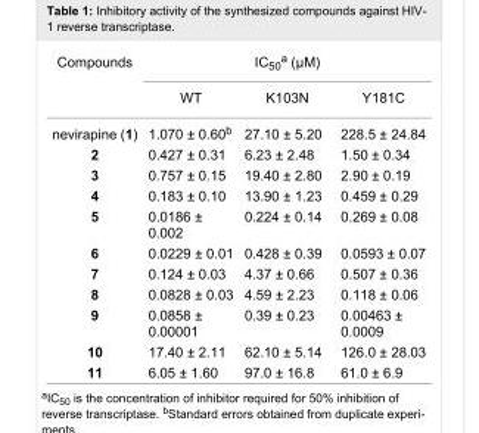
<table><tbody><tr><td rowspan="2">Compounds</td><td colspan="3">IC50a (μM)</td></tr><tr><td>WT</td><td>K103N</td><td>Y181C</td></tr><tr><td>nevirapine (1)</td><td>1.070 ± 0.60<sup>b</sup></td><td>27.10 ± 5.20</td><td>228.5 ± 24.84</td></tr><tr><td>2</td><td>0.427 ± 0.31</td><td>6.23 ± 2.48</td><td>1.50 ± 0.34</td></tr><tr><td>3</td><td>0.757 ± 0.15</td><td>19.40 ± 2.80</td><td>2.90 ± 0.19</td></tr><tr><td>4</td><td>0.183 ± 0.10</td><td>13.90 ± 1.23</td><td>0.459 ± 0.29</td></tr><tr><td>5</td><td>0.0186 ± 0.002</td><td>0.224 ± 0.14</td><td>0.269 ± 0.08</td></tr><tr><td>6</td><td>0.0229 ± 0.01</td><td>0.428 ± 0.39</td><td>0.0593 ± 0.07</td></tr><tr><td>7</td><td>0.124 ± 0.03</td><td>4.37 ± 0.66</td><td>0.507 ± 0.36</td></tr><tr><td>8</td><td>0.0828 ± 0.03</td><td>4.59 ± 2.23</td><td>0.118 ± 0.06</td></tr><tr><td>9</td><td>0.0858 ± 0.00001</td><td>0.39 ± 0.23</td><td>0.00463 ± 0.0009</td></tr><tr><td>10</td><td>17.40 ± 2.11</td><td>62.10 ± 5.14</td><td>126.0 ± 28.03</td></tr><tr><td>11</td><td>6.05 ± 1.60</td><td>97.0 ± 16.8</td><td>61.0 ± 6.9</td></tr></tbody></table>